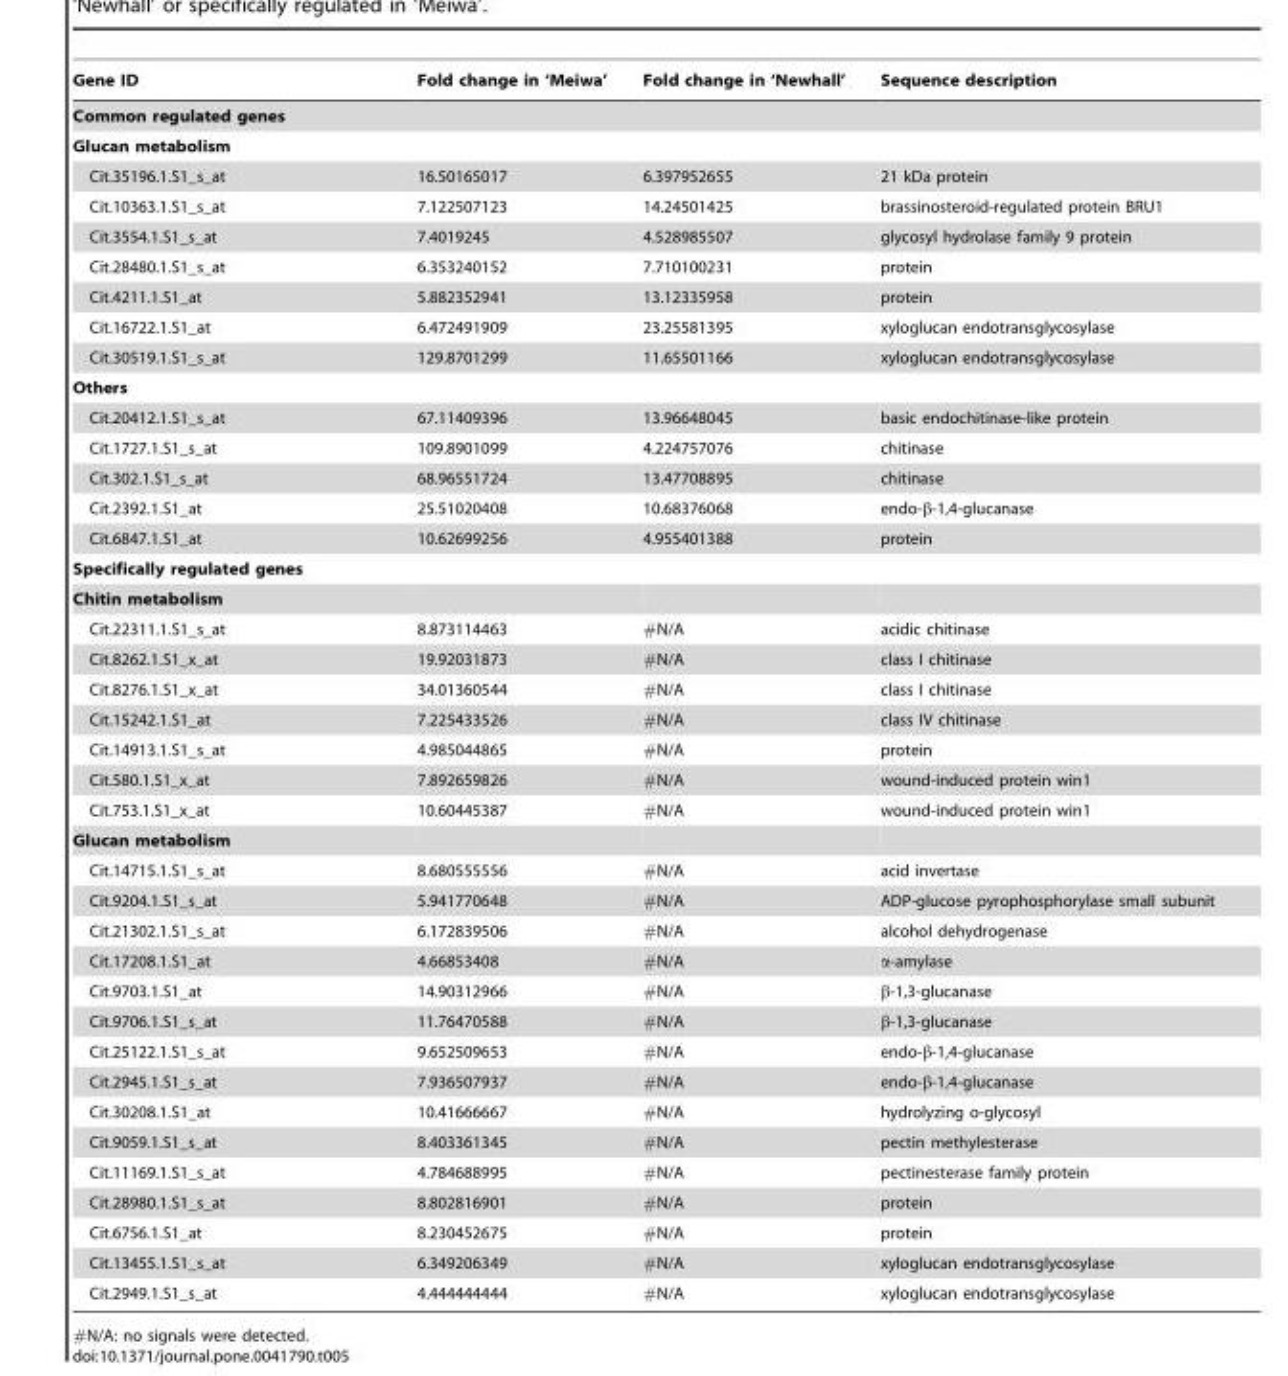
<table><thead><tr><td>Gene ID</td><td>Fold change in ‘Meiwa’</td><td>Fold change in ‘Newhall’</td><td>Sequence description</td></tr></thead><tbody><tr><td colspan="4">Common regulated genes</td></tr><tr><td colspan="4">Glucan metabolism</td></tr><tr><td>Cit.35196.1.S1_s_at</td><td>16.50165017</td><td>6.397952655</td><td>21 kDa protein</td></tr><tr><td>Cit.10363.1.S1_s_at</td><td>7.122507123</td><td>14.24501425</td><td>brassinosteroid-regulated protein BRU1</td></tr><tr><td>Cit.3554.1.S1_s_at</td><td>7.4019245</td><td>4.528985507</td><td>glycosyl hydrolase family 9 protein</td></tr><tr><td>Cit.28480.1.S1_s_at</td><td>6.353240152</td><td>7.710100231</td><td>protein</td></tr><tr><td>Cit.4211.1.S1_at</td><td>5.882352941</td><td>13.12335958</td><td>protein</td></tr><tr><td>Cit.16722.1.S1_at</td><td>6.472491909</td><td>23.25581395</td><td>xyloglucan endotransglycosylase</td></tr><tr><td>Cit.30519.1.S1_s_at</td><td>129.8701299</td><td>11.65501166</td><td>xyloglucan endotransglycosylase</td></tr><tr><td colspan="4">Others</td></tr><tr><td>Cit.20412.1.S1_s_at</td><td>67.11409396</td><td>13.96648045</td><td>basic endochitinase-like protein</td></tr><tr><td>Cit.1727.1.S1_s_at</td><td>109.8901099</td><td>4.224757076</td><td>chitinase</td></tr><tr><td>Cit.302.1.S1_s_at</td><td>68.96551724</td><td>13.47708895</td><td>chitinase</td></tr><tr><td>Cit.2392.1.S1_at</td><td>25.51020408</td><td>10.68376068</td><td>endo-β-1,4-glucanase</td></tr><tr><td>Cit.6847.1.S1_at</td><td>10.62699256</td><td>4.955401388</td><td>protein</td></tr><tr><td colspan="4">Specifically regulated genes</td></tr><tr><td colspan="4">Chitin metabolism</td></tr><tr><td>Cit.22311.1.S1_s_at</td><td>8.873114463</td><td>#N/A</td><td>acidic chitinase</td></tr><tr><td>Cit.8262.1.S1_x_at</td><td>19.92031873</td><td>#N/A</td><td>class I chitinase</td></tr><tr><td>Cit.8276.1.S1_x_at</td><td>34.01360544</td><td>#N/A</td><td>class I chitinase</td></tr><tr><td>Cit.15242.1.S1_at</td><td>7.225433526</td><td>#N/A</td><td>class IV chitinase</td></tr><tr><td>Cit.14913.1.S1_s_at</td><td>4.985044865</td><td>#N/A</td><td>protein</td></tr><tr><td>Cit.580.1.S1_x_at</td><td>7.892659826</td><td>#N/A</td><td>wound-induced protein win1</td></tr><tr><td>Cit.753.1.S1_x_at</td><td>10.60445387</td><td>#N/A</td><td>wound-induced protein win1</td></tr><tr><td colspan="4">Glucan metabolism</td></tr><tr><td>Cit.14715.1.S1_s_at</td><td>8.680555556</td><td>#N/A</td><td>acid invertase</td></tr><tr><td>Cit.9204.1.S1_s_at</td><td>5.941770648</td><td>#N/A</td><td>ADP-glucose pyrophosphorylase small subunit</td></tr><tr><td>Cit.21302.1.S1_s_at</td><td>6.172839506</td><td>#N/A</td><td>alcohol dehydrogenase</td></tr><tr><td>Cit.17208.1.S1_at</td><td>4.66853408</td><td>#N/A</td><td>α-amylase</td></tr><tr><td>Cit.9703.1.S1_at</td><td>14.90312966</td><td>#N/A</td><td>β-1,3-glucanase</td></tr><tr><td>Cit.9706.1.S1_s_at</td><td>11.76470588</td><td>#N/A</td><td>β-1,3-glucanase</td></tr><tr><td>Cit.25122.1.S1_s_at</td><td>9.652509653</td><td>#N/A</td><td>endo-β-1,4-glucanase</td></tr><tr><td>Cit.2945.1.S1_s_at</td><td>7.936507937</td><td>#N/A</td><td>endo-β-1,4-glucanase</td></tr><tr><td>Cit.30208.1.S1_at</td><td>10.41666667</td><td>#N/A</td><td>hydrolyzing o-glycosyl</td></tr><tr><td>Cit.9059.1.S1_s_at</td><td>8.403361345</td><td>#N/A</td><td>pectin methylesterase</td></tr><tr><td>Cit.11169.1.S1_s_at</td><td>4.784688995</td><td>#N/A</td><td>pectinesterase family protein</td></tr><tr><td>Cit.28980.1.S1_s_at</td><td>8.802816901</td><td>#N/A</td><td>protein</td></tr><tr><td>Cit.6756.1.S1_at</td><td>8.230452675</td><td>#N/A</td><td>protein</td></tr><tr><td>Cit.13455.1.S1_s_at</td><td>6.349206349</td><td>#N/A</td><td>xyloglucan endotransglycosylase</td></tr><tr><td>Cit.2949.1.S1_s_at</td><td>4.444444444</td><td>#N/A</td><td>xyloglucan endotransglycosylase</td></tr></tbody></table>